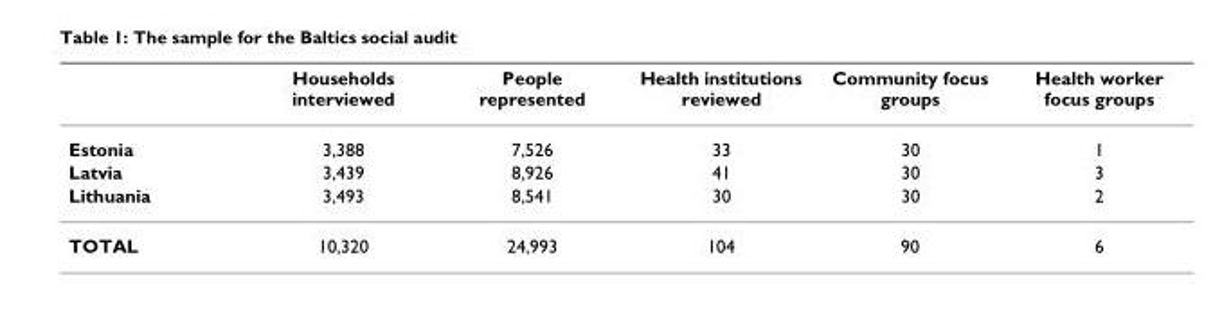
<table><thead><tr><td></td><td>Households interviewed</td><td>People represented</td><td>Health institutions reviewed</td><td>Community focus groups</td><td>Health worker focus groups</td></tr></thead><tbody><tr><td>Estonia</td><td>3,388</td><td>7,526</td><td>33</td><td>30</td><td>1</td></tr><tr><td>Latvia</td><td>3,439</td><td>8,926</td><td>41</td><td>30</td><td>3</td></tr><tr><td>Lithuania</td><td>3,493</td><td>8,541</td><td>30</td><td>30</td><td>2</td></tr><tr><td>TOTAL</td><td>10,320</td><td>24,993</td><td>104</td><td>90</td><td>6</td></tr></tbody></table>